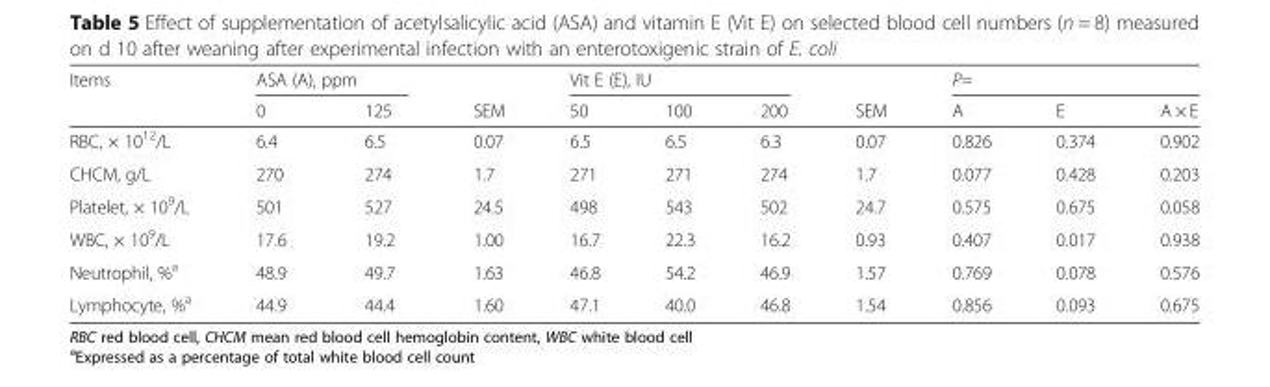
<table><thead><tr><td rowspan="2">Items</td><td colspan="2">ASA (A), ppm</td><td rowspan="2">SEM</td><td colspan="3">Vit E (E), IU</td><td rowspan="2">SEM</td><td colspan="3">P=</td></tr><tr><td>0</td><td>125</td><td>50</td><td>100</td><td>200</td><td>A</td><td>E</td><td>A × E</td></tr></thead><tbody><tr><td>RBC, × 10<sup>12</sup>/L</td><td>6.4</td><td>6.5</td><td>0.07</td><td>6.5</td><td>6.5</td><td>6.3</td><td>0.07</td><td>0.826</td><td>0.374</td><td>0.902</td></tr><tr><td>CHCM, g/L</td><td>270</td><td>274</td><td>1.7</td><td>271</td><td>271</td><td>274</td><td>1.7</td><td>0.077</td><td>0.428</td><td>0.203</td></tr><tr><td>Platelet, × 10<sup>9</sup>/L</td><td>501</td><td>527</td><td>24.5</td><td>498</td><td>543</td><td>502</td><td>24.7</td><td>0.575</td><td>0.675</td><td>0.058</td></tr><tr><td>WBC, × 10<sup>9</sup>/L</td><td>17.6</td><td>19.2</td><td>1.00</td><td>16.7</td><td>22.3</td><td>16.2</td><td>0.93</td><td>0.407</td><td>0.017</td><td>0.938</td></tr><tr><td>Neutrophil, %<sup>a</sup></td><td>48.9</td><td>49.7</td><td>1.63</td><td>46.8</td><td>54.2</td><td>46.9</td><td>1.57</td><td>0.769</td><td>0.078</td><td>0.576</td></tr><tr><td>Lymphocyte, %<sup>a</sup></td><td>44.9</td><td>44.4</td><td>1.60</td><td>47.1</td><td>40.0</td><td>46.8</td><td>1.54</td><td>0.856</td><td>0.093</td><td>0.675</td></tr></tbody></table>